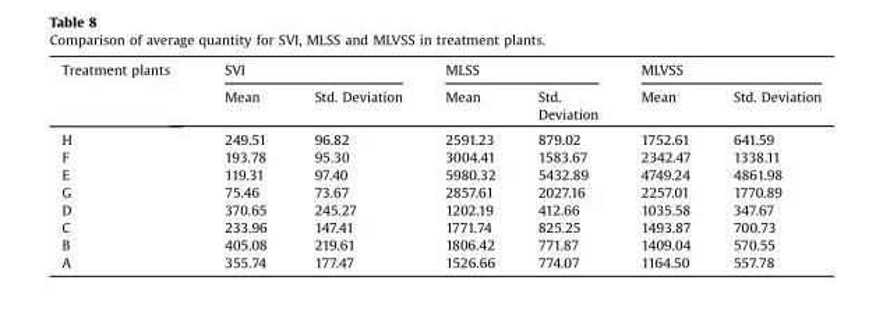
<table><thead><tr><td rowspan="2">Treatment plants</td><td colspan="2">SVI</td><td colspan="2">MLSS</td><td colspan="2">MLVSS</td></tr><tr><td>Mean</td><td>Std. Deviation</td><td>Mean</td><td>Std. Deviation</td><td>Mean</td><td>Std. Deviation</td></tr></thead><tbody><tr><td>H</td><td>249.51</td><td>96.82</td><td>2591.23</td><td>879.02</td><td>1752.61</td><td>641.59</td></tr><tr><td>F</td><td>193.78</td><td>95.30</td><td>3004.41</td><td>1583.67</td><td>2342.47</td><td>1338.11</td></tr><tr><td>E</td><td>119.31</td><td>97.40</td><td>5980.32</td><td>5432.89</td><td>4749.24</td><td>4861.98</td></tr><tr><td>G</td><td>75.46</td><td>73.67</td><td>2857.61</td><td>2027.16</td><td>2257.01</td><td>1770.89</td></tr><tr><td>D</td><td>370.65</td><td>245.27</td><td>1202.19</td><td>412.66</td><td>1035.58</td><td>347.67</td></tr><tr><td>C</td><td>233.96</td><td>147.41</td><td>1771.74</td><td>825.25</td><td>1493.87</td><td>700.73</td></tr><tr><td>B</td><td>405.08</td><td>219.61</td><td>1806.42</td><td>771.87</td><td>1409.04</td><td>570.55</td></tr><tr><td>A</td><td>355.74</td><td>177.47</td><td>1526.66</td><td>774.07</td><td>1164.50</td><td>557.78</td></tr></tbody></table>